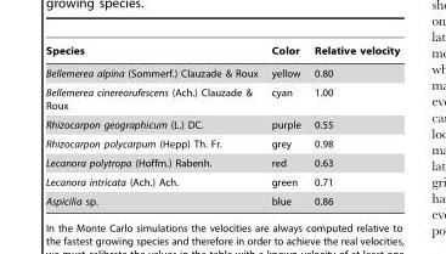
<table><thead><tr><td>Species</td><td>Color</td><td>Relative velocity</td></tr></thead><tbody><tr><td>Bellemerea alpina (Sommerf.) Clauzade &amp; Roux</td><td>yellow</td><td>0.80</td></tr><tr><td>Bellemerea cinereorufescens (Ach.) Clauzade &amp; Roux</td><td>cyan</td><td>1.00</td></tr><tr><td>Rhizocarpon geographicum (L.) DC.</td><td>purple</td><td>0.55</td></tr><tr><td>Rhizocarpon polycarpum (Hepp) Th. Fr.</td><td>grey</td><td>0.98</td></tr><tr><td>Lecanora polytropa (Hoffm.) Rabenh.</td><td>red</td><td>0.63</td></tr><tr><td>Lecanora intricata (Ach.) Ach.</td><td>green</td><td>0.71</td></tr><tr><td>Aspicilia sp.</td><td>blue</td><td>0.86</td></tr></tbody></table>